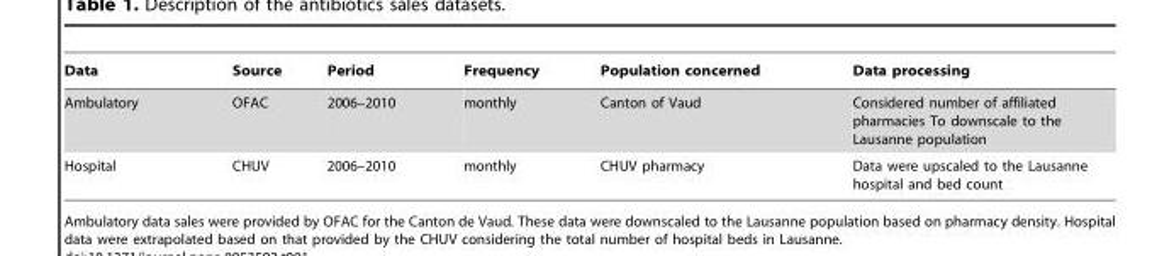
<table><thead><tr><td>Data</td><td>Source</td><td>Period</td><td>Frequency</td><td>Population concerned</td><td>Data processing</td></tr></thead><tbody><tr><td>Ambulatory</td><td>OFAC</td><td>2006–2010</td><td>monthly</td><td>Canton of Vaud</td><td>Considered number of affiliated pharmacies To downscale to the Lausanne population</td></tr><tr><td>Hospital</td><td>CHUV</td><td>2006–2010</td><td>monthly</td><td>CHUV pharmacy</td><td>Data were upscaled to the Lausanne hospital and bed count</td></tr></tbody></table>